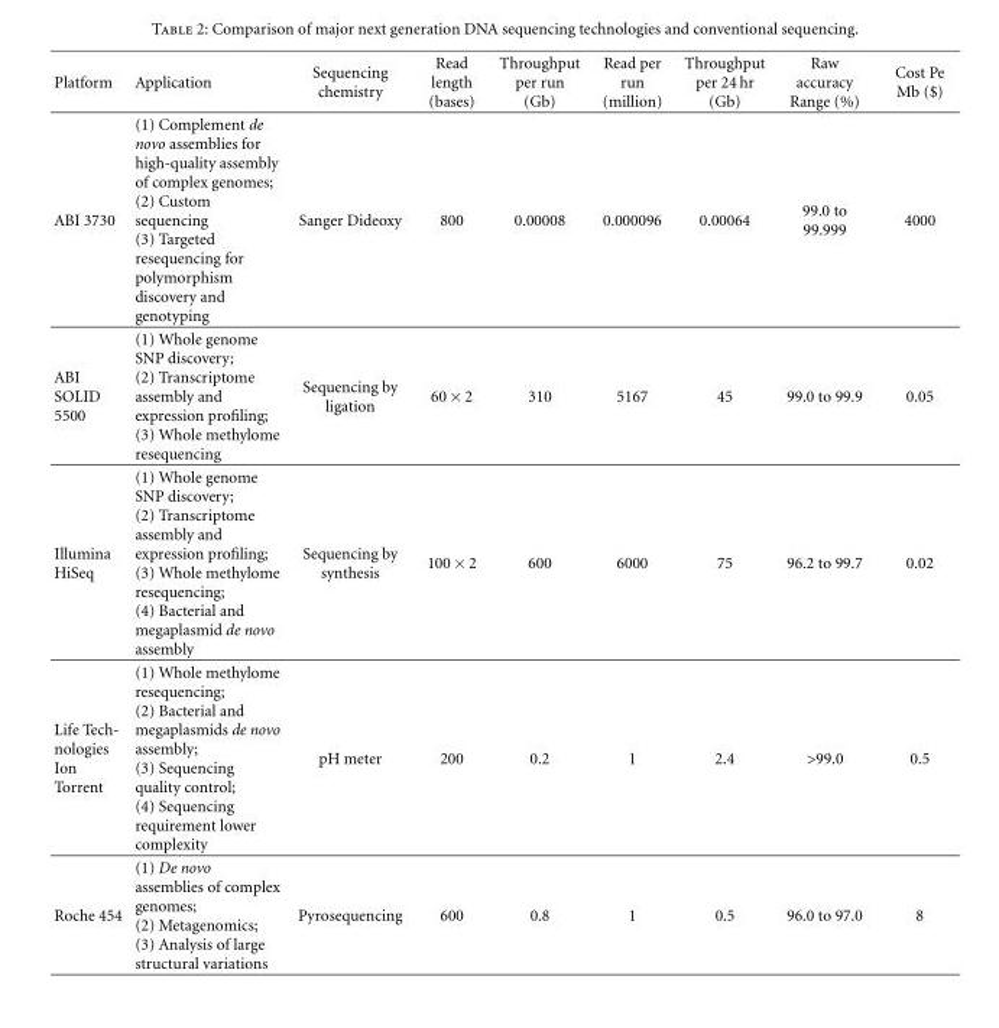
<table><thead><tr><td>Platform</td><td>Application</td><td>Sequencing chemistry</td><td>Read length (bases)</td><td>Throughput per run (Gb)</td><td>Read per run (million)</td><td>Throughput per 24 hr (Gb)</td><td>Raw accuracy Range (%)</td><td>Cost Pe Mb ($)</td></tr></thead><tbody><tr><td>ABI 3730</td><td>(1) Complement de novo assemblies for high-quality assembly of complex genomes; (2) Custom sequencing (3) Targeted resequencing for polymorphism discovery and genotyping</td><td>Sanger Dideoxy</td><td>800</td><td>0.00008</td><td>0.000096</td><td>0.00064</td><td>99.0 to 99.999</td><td>4000</td></tr><tr><td>ABI SOLID 5500</td><td>(1) Whole genome SNP discovery; (2) Transcriptome assembly and expression profiling; (3) Whole methylome resequencing</td><td>Sequencing by ligation</td><td>60 × 2</td><td>310</td><td>5167</td><td>45</td><td>99.0 to 99.9</td><td>0.05</td></tr><tr><td>Illumina HiSeq</td><td>(1) Whole genome SNP discovery; (2) Transcriptome assembly and expression profiling; (3) Whole methylome resequencing; (4) Bacterial and megaplasmid de novo assembly</td><td>Sequencing by synthesis</td><td>100 × 2</td><td>600</td><td>6000</td><td>75</td><td>96.2 to 99.7</td><td>0.02</td></tr><tr><td>Life Tech- nologies Ion Torrent</td><td>(1) Whole methylome resequencing; (2) Bacterial and megaplasmids de novo assembly; (3) Sequencing quality control; (4) Sequencing requirement lower complexity</td><td>pH meter</td><td>200</td><td>0.2</td><td>1</td><td>2.4</td><td>&gt;99.0</td><td>0.5</td></tr><tr><td>Roche 454</td><td>(1) De novo assemblies of complex genomes; (2) Metagenomics; (3) Analysis of large structural variations</td><td>Pyrosequencing</td><td>600</td><td>0.8</td><td>1</td><td>0.5</td><td>96.0 to 97.0</td><td>8</td></tr></tbody></table>